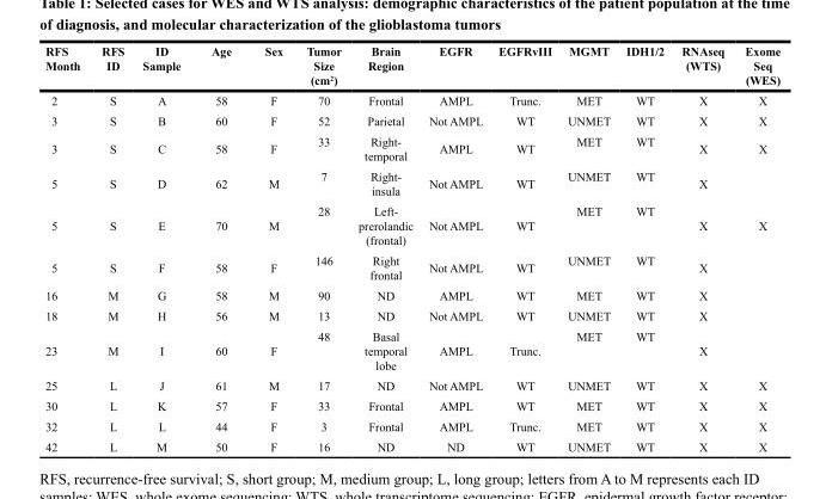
<table><thead><tr><td>RFS Month</td><td>RFS ID</td><td>ID Sample</td><td>Age</td><td>Sex</td><td>Tumor Size (cm<sup>2</sup>)</td><td>Brain Region</td><td>EGFR</td><td>EGFRvIII</td><td>MGMT</td><td>IDH1/2</td><td>RNAseq (WTS)</td><td>Exome Seq (WES)</td></tr></thead><tbody><tr><td>2</td><td>S</td><td>A</td><td>58</td><td>F</td><td>70</td><td>Frontal</td><td>AMPL</td><td>Trunc.</td><td>MET</td><td>WT</td><td>X</td><td>X</td></tr><tr><td>3</td><td>S</td><td>B</td><td>60</td><td>F</td><td>52</td><td>Parietal</td><td>Not AMPL</td><td>WT</td><td>UNMET</td><td>WT</td><td>X</td><td>X</td></tr><tr><td>3</td><td>S</td><td>C</td><td>58</td><td>F</td><td>33</td><td>Right- temporal</td><td>AMPL</td><td>WT</td><td>MET</td><td>WT</td><td>X</td><td>X</td></tr><tr><td>5</td><td>S</td><td>D</td><td>62</td><td>M</td><td>7</td><td>Right- insula</td><td>Not AMPL</td><td>WT</td><td>UNMET</td><td>WT</td><td>X</td><td></td></tr><tr><td>5</td><td>S</td><td>E</td><td>70</td><td>M</td><td>28</td><td>Left- prerolandic (frontal)</td><td>Not AMPL</td><td>WT</td><td>MET</td><td>WT</td><td>X</td><td>X</td></tr><tr><td>5</td><td>S</td><td>F</td><td>58</td><td>F</td><td>146</td><td>Right frontal</td><td>Not AMPL</td><td>WT</td><td>UNMET</td><td>WT</td><td>X</td><td></td></tr><tr><td>16</td><td>M</td><td>G</td><td>58</td><td>M</td><td>90</td><td>ND</td><td>AMPL</td><td>WT</td><td>MET</td><td>WT</td><td>X</td><td></td></tr><tr><td>18</td><td>M</td><td>H</td><td>56</td><td>M</td><td>13</td><td>ND</td><td>Not AMPL</td><td>WT</td><td>UNMET</td><td>WT</td><td>X</td><td></td></tr><tr><td>23</td><td>M</td><td>I</td><td>60</td><td>F</td><td>48</td><td>Basal temporal lobe</td><td>AMPL</td><td>Trunc.</td><td>MET</td><td>WT</td><td>X</td><td></td></tr><tr><td>25</td><td>L</td><td>J</td><td>61</td><td>M</td><td>17</td><td>ND</td><td>Not AMPL</td><td>WT</td><td>UNMET</td><td>WT</td><td>X</td><td>X</td></tr><tr><td>30</td><td>L</td><td>K</td><td>57</td><td>F</td><td>33</td><td>Frontal</td><td>AMPL</td><td>WT</td><td>MET</td><td>WT</td><td>X</td><td>X</td></tr><tr><td>32</td><td>L</td><td>L</td><td>44</td><td>F</td><td>3</td><td>Frontal</td><td>AMPL</td><td>Trunc.</td><td>MET</td><td>WT</td><td>X</td><td>X</td></tr><tr><td>42</td><td>L</td><td>M</td><td>50</td><td>F</td><td>16</td><td>ND</td><td>ND</td><td>WT</td><td>UNMET</td><td>WT</td><td>X</td><td>X</td></tr></tbody></table>